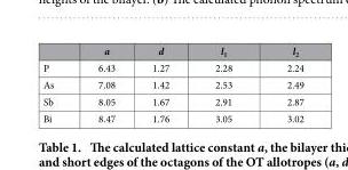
<table><thead><tr><td></td><td>a</td><td>d</td><td>l<sub>1</sub></td><td>l<sub>2</sub></td></tr></thead><tbody><tr><td>P</td><td>6.43</td><td>1.27</td><td>2.28</td><td>2.24</td></tr><tr><td>As</td><td>7.08</td><td>1.42</td><td>2.53</td><td>2.49</td></tr><tr><td>Sb</td><td>8.05</td><td>1.67</td><td>2.91</td><td>2.87</td></tr><tr><td>Bi</td><td>8.47</td><td>1.76</td><td>3.05</td><td>3.02</td></tr></tbody></table>